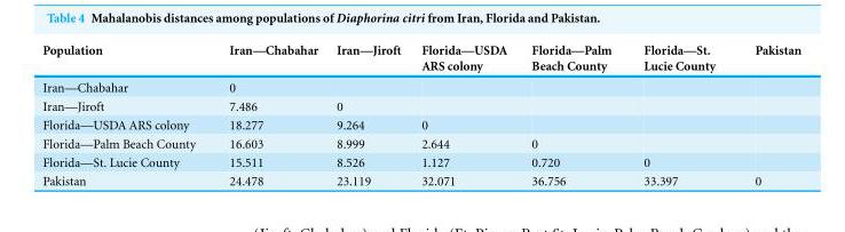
<table><thead><tr><td>Population</td><td>Iran—Chabahar</td><td>Iran—Jiroft</td><td>Florida—USDA ARS colony</td><td>Florida—Palm Beach County</td><td>Florida—St. Lucie County</td><td>Pakistan</td></tr></thead><tbody><tr><td>Iran—Chabahar</td><td>0</td><td></td><td></td><td></td><td></td><td></td></tr><tr><td>Iran—Jiroft</td><td>7.486</td><td>0</td><td></td><td></td><td></td><td></td></tr><tr><td>Florida—USDA ARS colony</td><td>18.277</td><td>9.264</td><td>0</td><td></td><td></td><td></td></tr><tr><td>Florida—Palm Beach County</td><td>16.603</td><td>8.999</td><td>2.644</td><td>0</td><td></td><td></td></tr><tr><td>Florida—St. Lucie County</td><td>15.511</td><td>8.526</td><td>1.127</td><td>0.720</td><td>0</td><td></td></tr><tr><td>Pakistan</td><td>24.478</td><td>23.119</td><td>32.071</td><td>36.756</td><td>33.397</td><td>0</td></tr></tbody></table>